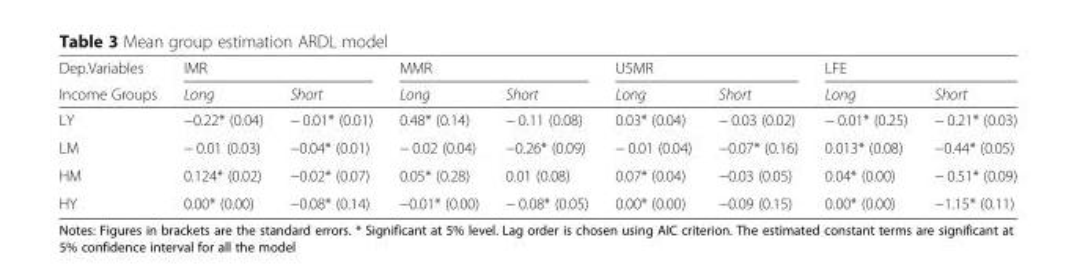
<table><thead><tr><td rowspan="2">Dep.Variables Income Groups</td><td colspan="2">IMR</td><td colspan="2">MMR</td><td colspan="2">U5MR</td><td colspan="2">LFE</td></tr><tr><td>Long</td><td>Short</td><td>Long</td><td>Short</td><td>Long</td><td>Short</td><td>Long</td><td>Short</td></tr></thead><tbody><tr><td>LY</td><td>−0.22* (0.04)</td><td>− 0.01* (0.01)</td><td>0.48* (0.14)</td><td>− 0.11 (0.08)</td><td>0.03* (0.04)</td><td>− 0.03 (0.02)</td><td>− 0.01* (0.25)</td><td>− 0.21* (0.03)</td></tr><tr><td>LM</td><td>− 0.01 (0.03)</td><td>−0.04* (0.01)</td><td>− 0.02 (0.04)</td><td>−0.26* (0.09)</td><td>− 0.01 (0.04)</td><td>−0.07* (0.16)</td><td>0.013* (0.08)</td><td>−0.44* (0.05)</td></tr><tr><td>HM</td><td>0.124* (0.02)</td><td>−0.02* (0.07)</td><td>0.05* (0.28)</td><td>0.01 (0.08)</td><td>0.07* (0.04)</td><td>−0.03 (0.05)</td><td>0.04* (0.00)</td><td>− 0.51* (0.09)</td></tr><tr><td>HY</td><td>0.00* (0.00)</td><td>−0.08* (0.14)</td><td>−0.01* (0.00)</td><td>− 0.08* (0.05)</td><td>0.00* (0.00)</td><td>−0.09 (0.15)</td><td>0.00* (0.00)</td><td>−1.15* (0.11)</td></tr></tbody></table>